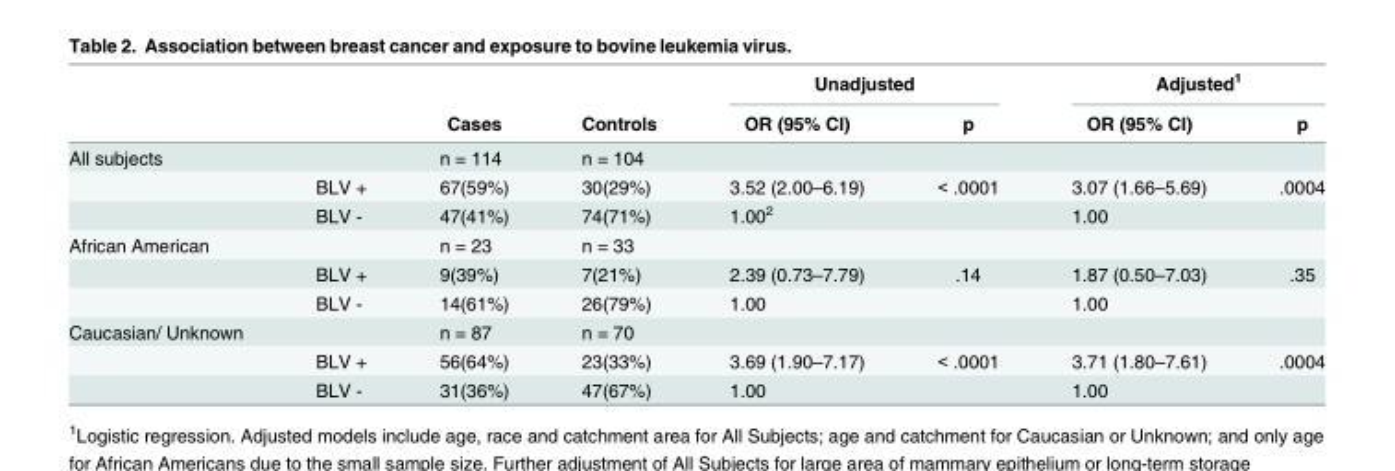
<table><thead><tr><td rowspan="2"></td><td rowspan="2"></td><td rowspan="2">Cases</td><td rowspan="2">Controls</td><td colspan="2">Unadjusted</td><td colspan="2">Adjusted<sup>1</sup></td></tr><tr><td>OR (95% CI)</td><td>p</td><td>OR (95% CI)</td><td>p</td></tr></thead><tbody><tr><td rowspan="3">All subjects</td><td></td><td>n = 114</td><td>n = 104</td><td></td><td></td><td></td><td></td></tr><tr><td>BLV +</td><td>67(59%)</td><td>30(29%)</td><td>3.52 (2.00–6.19)</td><td>&lt; .0001</td><td>3.07 (1.66–5.69)</td><td>.0004</td></tr><tr><td>BLV -</td><td>47(41%)</td><td>74(71%)</td><td>1.00<sup>2</sup></td><td></td><td>1.00</td><td></td></tr><tr><td rowspan="3">African American</td><td></td><td>n = 23</td><td>n = 33</td><td></td><td></td><td></td><td></td></tr><tr><td>BLV +</td><td>9(39%)</td><td>7(21%)</td><td>2.39 (0.73–7.79)</td><td>.14</td><td>1.87 (0.50–7.03)</td><td>.35</td></tr><tr><td>BLV -</td><td>14(61%)</td><td>26(79%)</td><td>1.00</td><td></td><td>1.00</td><td></td></tr><tr><td rowspan="3">Caucasian/ Unknown</td><td></td><td>n = 87</td><td>n = 70</td><td></td><td></td><td></td><td></td></tr><tr><td>BLV +</td><td>56(64%)</td><td>23(33%)</td><td>3.69 (1.90–7.17)</td><td>&lt; .0001</td><td>3.71 (1.80–7.61)</td><td>.0004</td></tr><tr><td>BLV -</td><td>31(36%)</td><td>47(67%)</td><td>1.00</td><td></td><td>1.00</td><td></td></tr></tbody></table>